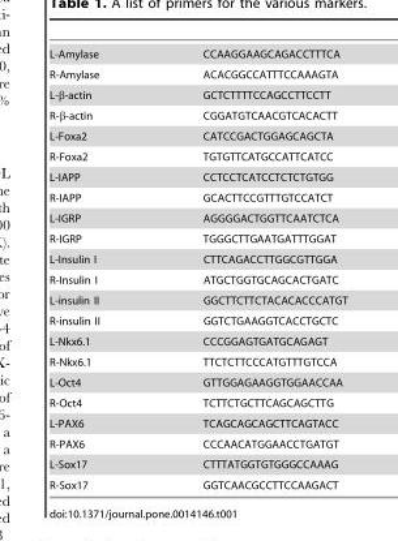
<table><tbody><tr><td>L-Amylase</td><td>CCAAGGAAGCAGACCTTTCA</td></tr><tr><td>R-Amylase</td><td>ACACGGCCATTTCCAAAGTA</td></tr><tr><td>L-β-actin</td><td>GCTCTTTTCCAGCCTTCCTT</td></tr><tr><td>R-β-actin</td><td>CGGATGTCAACGTCACACTT</td></tr><tr><td>L-Foxa2</td><td>CATCCGACTGGAGCAGCTA</td></tr><tr><td>R-Foxa2</td><td>TGTGTTCATGCCATTCATCC</td></tr><tr><td>L-IAPP</td><td>CCTCCTCATCCTCTCTGTGG</td></tr><tr><td>R-IAPP</td><td>GCACTTCCGTTTGTCCATCT</td></tr><tr><td>L-IGRP</td><td>AGGGGACTGGTTCAATCTCA</td></tr><tr><td>R-IGRP</td><td>TGGGCTTGAATGATTTGGAT</td></tr><tr><td>L-Insulin I</td><td>CTTCAGACCTTGGCGTTGGA</td></tr><tr><td>R-Insulin I</td><td>ATGCTGGTGCAGCACTGATC</td></tr><tr><td>L-insulin II</td><td>GGCTTCTTCTACACACCCATGT</td></tr><tr><td>R-insulin II</td><td>GGTCTGAAGGTCACCTGCTC</td></tr><tr><td>L-Nkx6.1</td><td>CCCGGAGTGATGCAGAGT</td></tr><tr><td>R-Nkx6.1</td><td>TTCTCTTCCCATGTTTGTCCA</td></tr><tr><td>L-Oct4</td><td>GTTGGAGAAGGTGGAACCAA</td></tr><tr><td>R-Oct4</td><td>TCTTCTGCTTCAGCAGCTTG</td></tr><tr><td>L-PAX6</td><td>TCAGCAGCAGCTTCAGTACC</td></tr><tr><td>R-PAX6</td><td>CCCAACATGGAACCTGATGT</td></tr><tr><td>L-Sox17</td><td>CTTTATGGTGTGGGCCAAAG</td></tr><tr><td>R-Sox17</td><td>GGTCAACGCCTTCCAAGACT</td></tr></tbody></table>